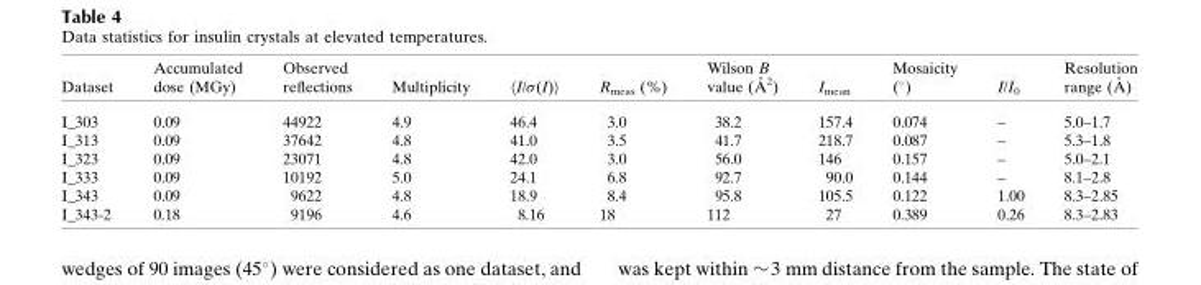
<table><thead><tr><td>Dataset</td><td>Accumulated dose (MGy)</td><td>Observed reflections</td><td>Multiplicity</td><td>〈I/σ(I)〉</td><td>R<sub>meas</sub> (%)</td><td>Wilson B value (A˚ 2)</td><td>I<sub>mean</sub></td><td>Mosaicity (°)</td><td>I/I<sub>0</sub></td><td>Resolution range (A˚ )</td></tr></thead><tbody><tr><td>I_303</td><td>0.09</td><td>44922</td><td>4.9</td><td>46.4</td><td>3.0</td><td>38.2</td><td>157.4</td><td>0.074</td><td>–</td><td>5.0–1.7</td></tr><tr><td>I_313</td><td>0.09</td><td>37642</td><td>4.8</td><td>41.0</td><td>3.5</td><td>41.7</td><td>218.7</td><td>0.087</td><td>–</td><td>5.3–1.8</td></tr><tr><td>I_323</td><td>0.09</td><td>23071</td><td>4.8</td><td>42.0</td><td>3.0</td><td>56.0</td><td>146</td><td>0.157</td><td>–</td><td>5.0–2.1</td></tr><tr><td>I_333</td><td>0.09</td><td>10192</td><td>5.0</td><td>24.1</td><td>6.8</td><td>92.7</td><td>90.0</td><td>0.144</td><td>–</td><td>8.1–2.8</td></tr><tr><td>I_343</td><td>0.09</td><td>9622</td><td>4.8</td><td>18.9</td><td>8.4</td><td>95.8</td><td>105.5</td><td>0.122</td><td>1.00</td><td>8.3–2.85</td></tr><tr><td>I_343-2</td><td>0.18</td><td>9196</td><td>4.6</td><td>8.16</td><td>18</td><td>112</td><td>27</td><td>0.389</td><td>0.26</td><td>8.3–2.83</td></tr></tbody></table>